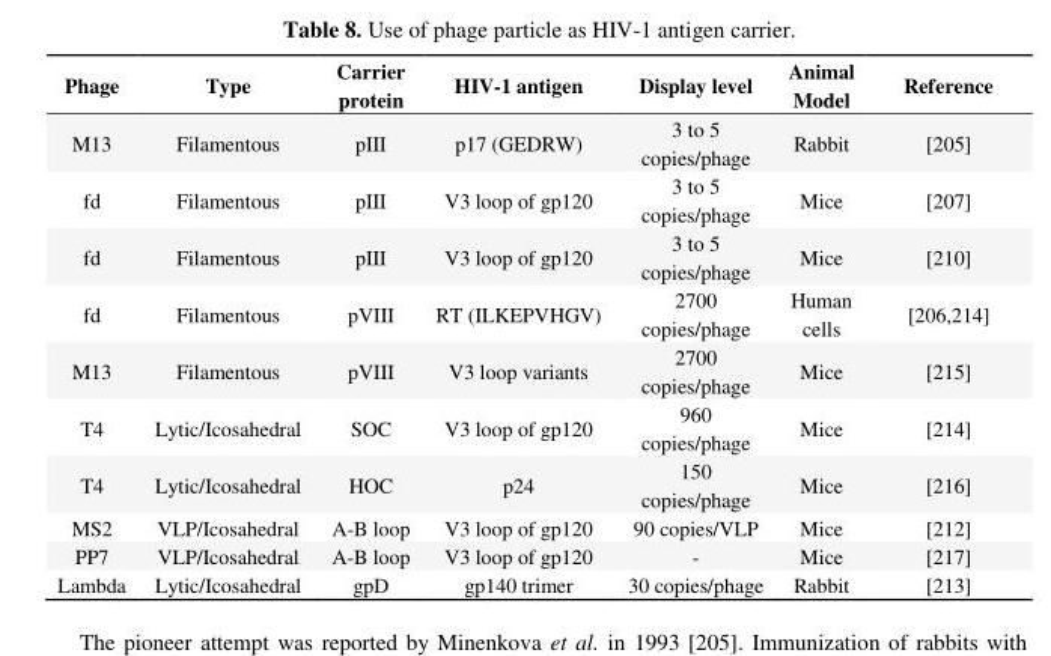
<table><thead><tr><td>Phage</td><td>Type</td><td>Carrier protein</td><td>HIV-1 antigen</td><td>Display level</td><td>Animal Model</td><td>Reference</td></tr></thead><tbody><tr><td>M13</td><td>Filamentous</td><td>pIII</td><td>p17 (GEDRW)</td><td>3 to 5 copies/phage</td><td>Rabbit</td><td>[205]</td></tr><tr><td>fd</td><td>Filamentous</td><td>pIII</td><td>V3 loop of gp120</td><td>3 to 5 copies/phage</td><td>Mice</td><td>[207]</td></tr><tr><td>fd</td><td>Filamentous</td><td>pIII</td><td>V3 loop of gp120</td><td>3 to 5 copies/phage</td><td>Mice</td><td>[210]</td></tr><tr><td>fd</td><td>Filamentous</td><td>pVIII</td><td>RT (ILKEPVHGV)</td><td>2700 copies/phage</td><td>Human cells</td><td>[206,214]</td></tr><tr><td>M13</td><td>Filamentous</td><td>pVIII</td><td>V3 loop variants</td><td>2700 copies/phage</td><td>Mice</td><td>[215]</td></tr><tr><td>T4</td><td>Lytic/Icosahedral</td><td>SOC</td><td>V3 loop of gp120</td><td>960 copies/phage</td><td>Mice</td><td>[214]</td></tr><tr><td>T4</td><td>Lytic/Icosahedral</td><td>HOC</td><td>p24</td><td>150 copies/phage</td><td>Mice</td><td>[216]</td></tr><tr><td>MS2</td><td>VLP/Icosahedral</td><td>A-B loop</td><td>V3 loop of gp120</td><td>90 copies/VLP</td><td>Mice</td><td>[212]</td></tr><tr><td>PP7</td><td>VLP/Icosahedral</td><td>A-B loop</td><td>V3 loop of gp120</td><td>-</td><td>Mice</td><td>[217]</td></tr><tr><td>Lambda</td><td>Lytic/Icosahedral</td><td>gpD</td><td>gp140 trimer</td><td>30 copies/phage</td><td>Rabbit</td><td>[213]</td></tr></tbody></table>